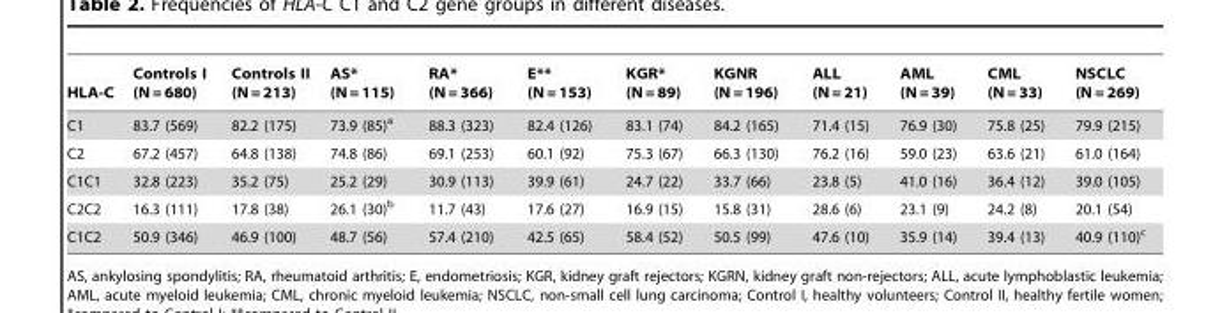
<table><thead><tr><td>HLA-C</td><td>Controls I (N = 680)</td><td>Controls II (N = 213)</td><td>AS* (N = 115)</td><td>RA* (N = 366)</td><td>E** (N = 153)</td><td>KGR* (N = 89)</td><td>KGNR (N = 196)</td><td>ALL (N = 21)</td><td>AML (N = 39)</td><td>CML (N = 33)</td><td>NSCLC (N = 269)</td></tr></thead><tbody><tr><td>C1</td><td>83.7 (569)</td><td>82.2 (175)</td><td>73.9 (85)<sup>a</sup></td><td>88.3 (323)</td><td>82.4 (126)</td><td>83.1 (74)</td><td>84.2 (165)</td><td>71.4 (15)</td><td>76.9 (30)</td><td>75.8 (25)</td><td>79.9 (215)</td></tr><tr><td>C2</td><td>67.2 (457)</td><td>64.8 (138)</td><td>74.8 (86)</td><td>69.1 (253)</td><td>60.1 (92)</td><td>75.3 (67)</td><td>66.3 (130)</td><td>76.2 (16)</td><td>59.0 (23)</td><td>63.6 (21)</td><td>61.0 (164)</td></tr><tr><td>C1C1</td><td>32.8 (223)</td><td>35.2 (75)</td><td>25.2 (29)</td><td>30.9 (113)</td><td>39.9 (61)</td><td>24.7 (22)</td><td>33.7 (66)</td><td>23.8 (5)</td><td>41.0 (16)</td><td>36.4 (12)</td><td>39.0 (105)</td></tr><tr><td>C2C2</td><td>16.3 (111)</td><td>17.8 (38)</td><td>26.1 (30)<sup>b</sup></td><td>11.7 (43)</td><td>17.6 (27)</td><td>16.9 (15)</td><td>15.8 (31)</td><td>28.6 (6)</td><td>23.1 (9)</td><td>24.2 (8)</td><td>20.1 (54)</td></tr><tr><td>C1C2</td><td>50.9 (346)</td><td>46.9 (100)</td><td>48.7 (56)</td><td>57.4 (210)</td><td>42.5 (65)</td><td>58.4 (52)</td><td>50.5 (99)</td><td>47.6 (10)</td><td>35.9 (14)</td><td>39.4 (13)</td><td>40.9 (110)<sup>c</sup></td></tr></tbody></table>